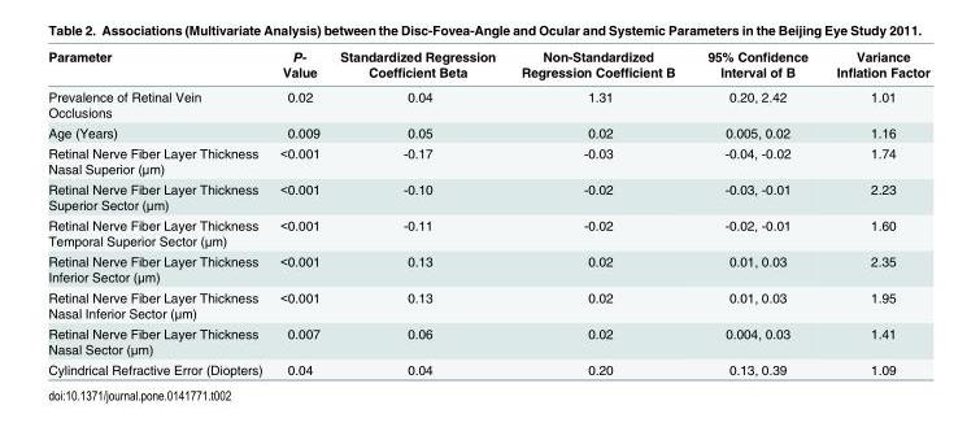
<table><thead><tr><td>Parameter</td><td>P- Value</td><td>Standardized Regression Coefficient Beta</td><td>Non-Standardized Regression Coefficient B</td><td>95% Confidence Interval of B</td><td>Variance Inflation Factor</td></tr></thead><tbody><tr><td>Prevalence of Retinal Vein Occlusions</td><td>0.02</td><td>0.04</td><td>1.31</td><td>0.20, 2.42</td><td>1.01</td></tr><tr><td>Age (Years)</td><td>0.009</td><td>0.05</td><td>0.02</td><td>0.005, 0.02</td><td>1.16</td></tr><tr><td>Retinal Nerve Fiber Layer Thickness Nasal Superior (μm)</td><td>&lt;0.001</td><td>-0.17</td><td>-0.03</td><td>-0.04, -0.02</td><td>1.74</td></tr><tr><td>Retinal Nerve Fiber Layer Thickness Superior Sector (μm)</td><td>&lt;0.001</td><td>-0.10</td><td>-0.02</td><td>-0.03, -0.01</td><td>2.23</td></tr><tr><td>Retinal Nerve Fiber Layer Thickness Temporal Superior Sector (μm)</td><td>&lt;0.001</td><td>-0.11</td><td>-0.02</td><td>-0.02, -0.01</td><td>1.60</td></tr><tr><td>Retinal Nerve Fiber Layer Thickness Inferior Sector (μm)</td><td>&lt;0.001</td><td>0.13</td><td>0.02</td><td>0.01, 0.03</td><td>2.35</td></tr><tr><td>Retinal Nerve Fiber Layer Thickness Nasal Inferior Sector (μm)</td><td>&lt;0.001</td><td>0.13</td><td>0.02</td><td>0.01, 0.03</td><td>1.95</td></tr><tr><td>Retinal Nerve Fiber Layer Thickness Nasal Sector (μm)</td><td>0.007</td><td>0.06</td><td>0.02</td><td>0.004, 0.03</td><td>1.41</td></tr><tr><td>Cylindrical Refractive Error (Diopters)</td><td>0.04</td><td>0.04</td><td>0.20</td><td>0.13, 0.39</td><td>1.09</td></tr></tbody></table>